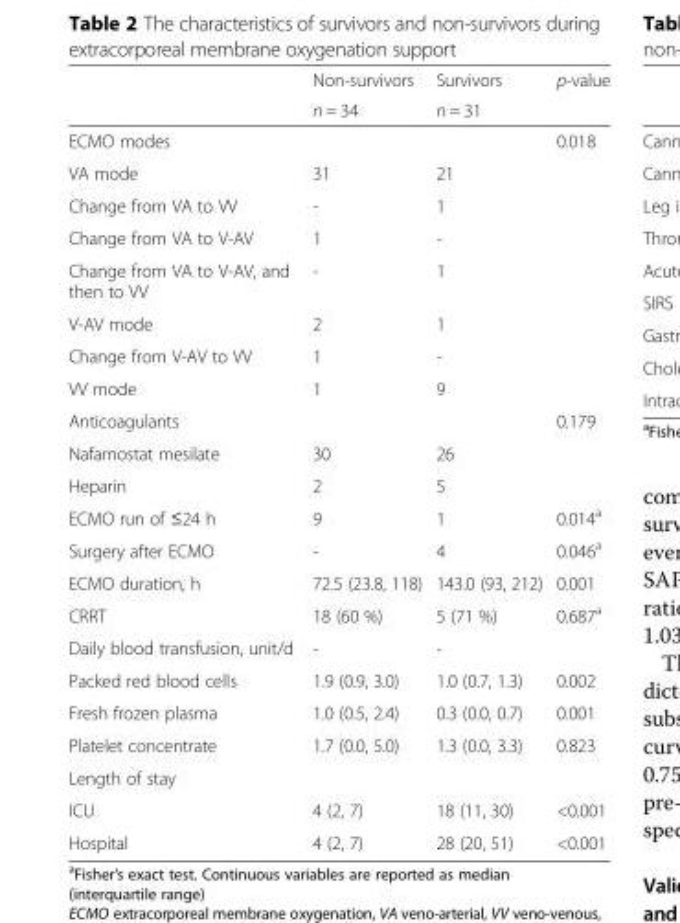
<table><thead><tr><td rowspan="2"></td><td rowspan="2">Non-survivors n = 34</td><td rowspan="2">Survivors n = 31</td><td rowspan="2">p-value</td></tr><tr></tr></thead><tbody><tr><td>ECMO modes</td><td></td><td></td><td>0.018</td></tr><tr><td>VA mode</td><td>31</td><td>21</td><td></td></tr><tr><td>Change from VA to VV</td><td>-</td><td>1</td><td></td></tr><tr><td>Change from VA to V-AV</td><td>1</td><td>-</td><td></td></tr><tr><td>Change from VA to V-AV, and then to VV</td><td>-</td><td>1</td><td></td></tr><tr><td>V-AV mode</td><td>2</td><td>1</td><td></td></tr><tr><td>Change from V-AV to VV</td><td>1</td><td>-</td><td></td></tr><tr><td>VV mode</td><td>1</td><td>9</td><td></td></tr><tr><td>Anticoagulants</td><td></td><td></td><td>0.179</td></tr><tr><td>Nafamostat mesilate</td><td>30</td><td>26</td><td></td></tr><tr><td>Heparin</td><td>2</td><td>5</td><td></td></tr><tr><td>ECMO run of ≤24 h</td><td>9</td><td>1</td><td>0.014<sup>a</sup></td></tr><tr><td>Surgery after ECMO</td><td>-</td><td>4</td><td>0.046<sup>a</sup></td></tr><tr><td>ECMO duration, h</td><td>72.5 (23.8, 118)</td><td>143.0 (93, 212)</td><td>0.001</td></tr><tr><td>CRRT</td><td>18 (60 %)</td><td>5 (71 %)</td><td>0.687<sup>a</sup></td></tr><tr><td>Daily blood transfusion, unit/d</td><td>-</td><td>-</td><td></td></tr><tr><td>Packed red blood cells</td><td>1.9 (0.9, 3.0)</td><td>1.0 (0.7, 1.3)</td><td>0.002</td></tr><tr><td>Fresh frozen plasma</td><td>1.0 (0.5, 2.4)</td><td>0.3 (0.0, 0.7)</td><td>0.001</td></tr><tr><td>Platelet concentrate</td><td>1.7 (0.0, 5.0)</td><td>1.3 (0.0, 3.3)</td><td>0.823</td></tr><tr><td colspan="4">Length of stay</td></tr><tr><td>ICU</td><td>4 (2, 7)</td><td>18 (11, 30)</td><td>&lt;0.001</td></tr><tr><td>Hospital</td><td>4 (2, 7)</td><td>28 (20, 51)</td><td>&lt;0.001</td></tr></tbody></table>